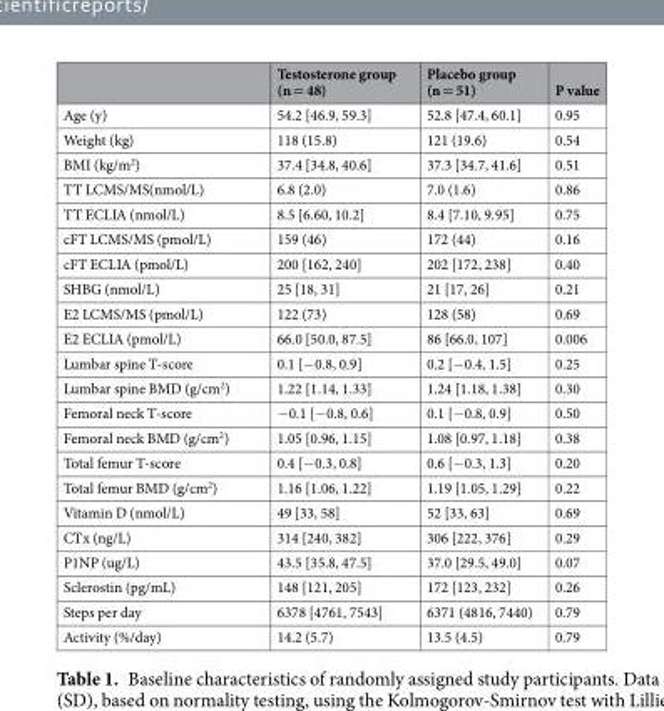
<table><thead><tr><td></td><td>Testosterone group (n = 48)</td><td>Placebo group (n = 51)</td><td>P value</td></tr></thead><tbody><tr><td>Age (y)</td><td>54.2 [46.9, 59.3]</td><td>52.8 [47.4, 60.1]</td><td>0.95</td></tr><tr><td>Weight (kg)</td><td>118 (15.8)</td><td>121 (19.6)</td><td>0.54</td></tr><tr><td>BMI (kg/m<sup>2</sup>)</td><td>37.4 [34.8, 40.6]</td><td>37.3 [34.7, 41.6]</td><td>0.51</td></tr><tr><td>TT LCMS/MS(nmol/L)</td><td>6.8 (2.0)</td><td>7.0 (1.6)</td><td>0.86</td></tr><tr><td>TT ECLIA (nmol/L)</td><td>8.5 [6.60, 10.2]</td><td>8.4 [7.10, 9.95]</td><td>0.75</td></tr><tr><td>cFT LCMS/MS (pmol/L)</td><td>159 (46)</td><td>172 (44)</td><td>0.16</td></tr><tr><td>cFT ECLIA (pmol/L)</td><td>200 [162, 240]</td><td>202 [172, 238]</td><td>0.40</td></tr><tr><td>SHBG (nmol/L)</td><td>25 [18, 31]</td><td>21 [17, 26]</td><td>0.21</td></tr><tr><td>E2 LCMS/MS (pmol/L)</td><td>122 (73)</td><td>128 (58)</td><td>0.69</td></tr><tr><td>E2 ECLIA (pmol/L)</td><td>66.0 [50.0, 87.5]</td><td>86 [66.0, 107]</td><td>0.006</td></tr><tr><td>Lumbar spine T-score</td><td>0.1 [−0.8, 0.9]</td><td>0.2 [−0.4, 1.5]</td><td>0.25</td></tr><tr><td>Lumbar spine BMD (g/cm<sup>2</sup>)</td><td>1.22 [1.14, 1.33]</td><td>1.24 [1.18, 1.38]</td><td>0.30</td></tr><tr><td>Femoral neck T-score</td><td>−0.1 [−0.8, 0.6]</td><td>0.1 [−0.8, 0.9]</td><td>0.50</td></tr><tr><td>Femoral neck BMD (g/cm<sup>2</sup>)</td><td>1.05 [0.96, 1.15]</td><td>1.08 [0.97, 1.18]</td><td>0.38</td></tr><tr><td>Total femur T-score</td><td>0.4 [−0.3, 0.8]</td><td>0.6 [−0.3, 1.3]</td><td>0.20</td></tr><tr><td>Total femur BMD (g/cm<sup>2</sup>)</td><td>1.16 [1.06, 1.22]</td><td>1.19 [1.05, 1.29]</td><td>0.22</td></tr><tr><td>Vitamin D (nmol/L)</td><td>49 [33, 58]</td><td>52 [33, 63]</td><td>0.69</td></tr><tr><td>CTx (ng/L)</td><td>314 [240, 382]</td><td>306 [222, 376]</td><td>0.29</td></tr><tr><td>P1NP (ug/L)</td><td>43.5 [35.8, 47.5]</td><td>37.0 [29.5, 49.0]</td><td>0.07</td></tr><tr><td>Sclerostin (pg/mL)</td><td>148 [121, 205]</td><td>172 [123, 232]</td><td>0.26</td></tr><tr><td>Steps per day</td><td>6378 [4761, 7543]</td><td>6371 (4816, 7440)</td><td>0.79</td></tr><tr><td>Activity (%/day)</td><td>14.2 (5.7)</td><td>13.5 (4.5)</td><td>0.79</td></tr></tbody></table>